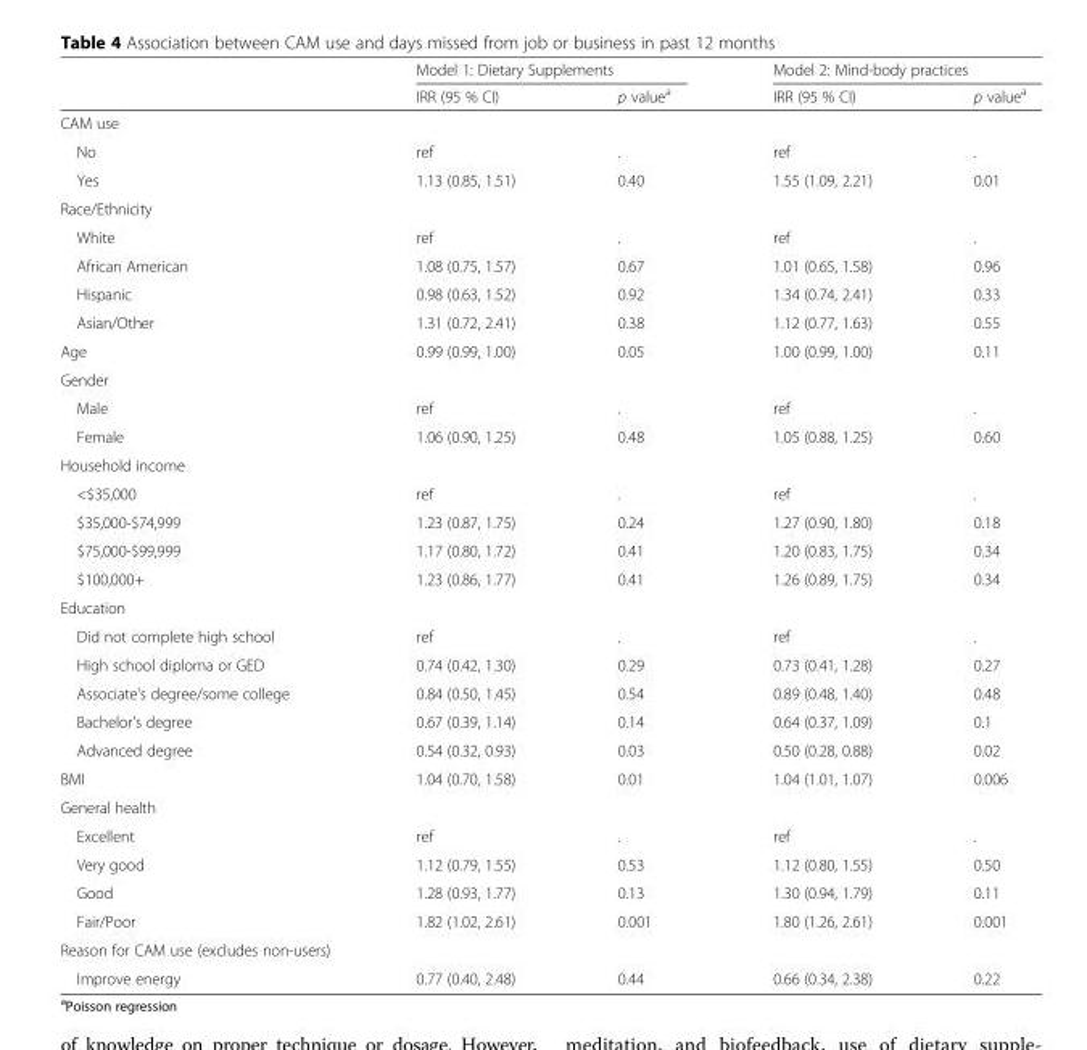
<table><thead><tr><td rowspan="2"></td><td colspan="2">Model 1: Dietary Supplements</td><td colspan="2">Model 2: Mind-body practices</td></tr><tr><td>IRR (95 % CI)</td><td>p value<sup>a</sup></td><td>IRR (95 % CI)</td><td>p value<sup>a</sup></td></tr></thead><tbody><tr><td colspan="5">CAM use</td></tr><tr><td>No</td><td>ref</td><td>.</td><td>ref</td><td>.</td></tr><tr><td>Yes</td><td>1.13 (0.85, 1.51)</td><td>0.40</td><td>1.55 (1.09, 2.21)</td><td>0.01</td></tr><tr><td colspan="5">Race/Ethnicity</td></tr><tr><td>White</td><td>ref</td><td>.</td><td>ref</td><td>.</td></tr><tr><td>African American</td><td>1.08 (0.75, 1.57)</td><td>0.67</td><td>1.01 (0.65, 1.58)</td><td>0.96</td></tr><tr><td>Hispanic</td><td>0.98 (0.63, 1.52)</td><td>0.92</td><td>1.34 (0.74, 2.41)</td><td>0.33</td></tr><tr><td>Asian/Other</td><td>1.31 (0.72, 2.41)</td><td>0.38</td><td>1.12 (0.77, 1.63)</td><td>0.55</td></tr><tr><td>Age</td><td>0.99 (0.99, 1.00)</td><td>0.05</td><td>1.00 (0.99, 1.00)</td><td>0.11</td></tr><tr><td colspan="5">Gender</td></tr><tr><td>Male</td><td>ref</td><td>.</td><td>ref</td><td>.</td></tr><tr><td>Female</td><td>1.06 (0.90, 1.25)</td><td>0.48</td><td>1.05 (0.88, 1.25)</td><td>0.60</td></tr><tr><td colspan="5">Household income</td></tr><tr><td>&lt;$35,000</td><td>ref</td><td>.</td><td>ref</td><td>.</td></tr><tr><td>$35,000-$74,999</td><td>1.23 (0.87, 1.75)</td><td>0.24</td><td>1.27 (0.90, 1.80)</td><td>0.18</td></tr><tr><td>$75,000-$99,999</td><td>1.17 (0.80, 1.72)</td><td>0.41</td><td>1.20 (0.83, 1.75)</td><td>0.34</td></tr><tr><td>$100,000+</td><td>1.23 (0.86, 1.77)</td><td>0.41</td><td>1.26 (0.89, 1.75)</td><td>0.34</td></tr><tr><td colspan="5">Education</td></tr><tr><td>Did not complete high school</td><td>ref</td><td>.</td><td>ref</td><td>.</td></tr><tr><td>High school diploma or GED</td><td>0.74 (0.42, 1.30)</td><td>0.29</td><td>0.73 (0.41, 1.28)</td><td>0.27</td></tr><tr><td>Associate&#x27;s degree/some college</td><td>0.84 (0.50, 1.45)</td><td>0.54</td><td>0.89 (0.48, 1.40)</td><td>0.48</td></tr><tr><td>Bachelor&#x27;s degree</td><td>0.67 (0.39, 1.14)</td><td>0.14</td><td>0.64 (0.37, 1.09)</td><td>0.1</td></tr><tr><td>Advanced degree</td><td>0.54 (0.32, 0.93)</td><td>0.03</td><td>0.50 (0.28, 0.88)</td><td>0.02</td></tr><tr><td>BMI</td><td>1.04 (0.70, 1.58)</td><td>0.01</td><td>1.04 (1.01, 1.07)</td><td>0.006</td></tr><tr><td colspan="5">General health</td></tr><tr><td>Excellent</td><td>ref</td><td>.</td><td>ref</td><td>.</td></tr><tr><td>Very good</td><td>1.12 (0.79, 1.55)</td><td>0.53</td><td>1.12 (0.80, 1.55)</td><td>0.50</td></tr><tr><td>Good</td><td>1.28 (0.93, 1.77)</td><td>0.13</td><td>1.30 (0.94, 1.79)</td><td>0.11</td></tr><tr><td>Fair/Poor</td><td>1.82 (1.02, 2.61)</td><td>0.001</td><td>1.80 (1.26, 2.61)</td><td>0.001</td></tr><tr><td colspan="5">Reason for CAM use (excludes non-users)</td></tr><tr><td>Improve energy</td><td>0.77 (0.40, 2.48)</td><td>0.44</td><td>0.66 (0.34, 2.38)</td><td>0.22</td></tr></tbody></table>